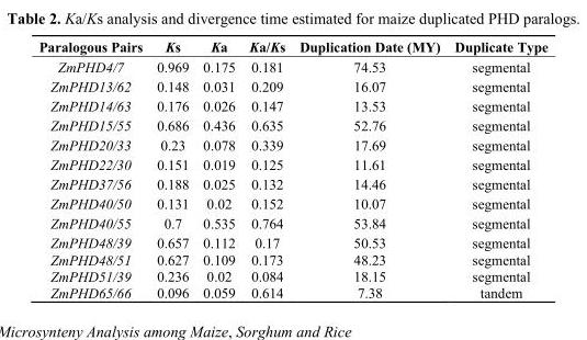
<table><thead><tr><td>Paralogous Pairs</td><td>Ks</td><td>Ka</td><td>Ka/Ks</td><td>Duplication Date (MY)</td><td>Duplicate Type</td></tr></thead><tbody><tr><td>ZmPHD4/7</td><td>0.969</td><td>0.175</td><td>0.181</td><td>74.53</td><td>segmental</td></tr><tr><td>ZmPHD13/62</td><td>0.148</td><td>0.031</td><td>0.209</td><td>16.07</td><td>segmental</td></tr><tr><td>ZmPHD14/63</td><td>0.176</td><td>0.026</td><td>0.147</td><td>13.53</td><td>segmental</td></tr><tr><td>ZmPHD15/55</td><td>0.686</td><td>0.436</td><td>0.635</td><td>52.76</td><td>segmental</td></tr><tr><td>ZmPHD20/33</td><td>0.23</td><td>0.078</td><td>0.339</td><td>17.69</td><td>segmental</td></tr><tr><td>ZmPHD22/30</td><td>0.151</td><td>0.019</td><td>0.125</td><td>11.61</td><td>segmental</td></tr><tr><td>ZmPHD37/56</td><td>0.188</td><td>0.025</td><td>0.132</td><td>14.46</td><td>segmental</td></tr><tr><td>ZmPHD40/50</td><td>0.131</td><td>0.02</td><td>0.152</td><td>10.07</td><td>segmental</td></tr><tr><td>ZmPHD40/55</td><td>0.7</td><td>0.535</td><td>0.764</td><td>53.84</td><td>segmental</td></tr><tr><td>ZmPHD48/39</td><td>0.657</td><td>0.112</td><td>0.17</td><td>50.53</td><td>segmental</td></tr><tr><td>ZmPHD48/51</td><td>0.627</td><td>0.109</td><td>0.173</td><td>48.23</td><td>segmental</td></tr><tr><td>ZmPHD51/39</td><td>0.236</td><td>0.02</td><td>0.084</td><td>18.15</td><td>segmental</td></tr><tr><td>ZmPHD65/66</td><td>0.096</td><td>0.059</td><td>0.614</td><td>7.38</td><td>tandem</td></tr></tbody></table>